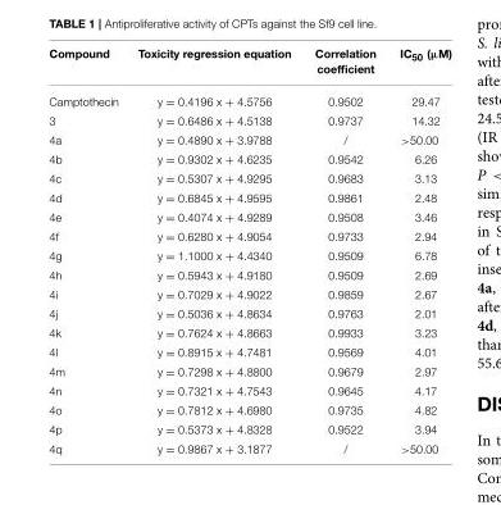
<table><thead><tr><td>Compound</td><td>Toxicity regression equation</td><td>Correlation coefficient</td><td>IC<sub>50</sub> (µM)</td></tr></thead><tbody><tr><td>Camptothecin</td><td>y = 0.4196 x + 4.5756</td><td>0.9502</td><td>29.47</td></tr><tr><td>3</td><td>y = 0.6486 x + 4.5138</td><td>0.9737</td><td>14.32</td></tr><tr><td>4a</td><td>y = 0.4890 x + 3.9788</td><td>/</td><td>&gt;50.00</td></tr><tr><td>4b</td><td>y = 0.9302 x + 4.6235</td><td>0.9542</td><td>6.26</td></tr><tr><td>4c</td><td>y = 0.5307 x + 4.9295</td><td>0.9683</td><td>3.13</td></tr><tr><td>4d</td><td>y = 0.6845 x + 4.9595</td><td>0.9861</td><td>2.48</td></tr><tr><td>4e</td><td>y = 0.4074 x + 4.9289</td><td>0.9508</td><td>3.46</td></tr><tr><td>4f</td><td>y = 0.6280 x + 4.9054</td><td>0.9733</td><td>2.94</td></tr><tr><td>4g</td><td>y = 1.1000 x + 4.4340</td><td>0.9509</td><td>6.78</td></tr><tr><td>4h</td><td>y = 0.5943 x + 4.9180</td><td>0.9509</td><td>2.69</td></tr><tr><td>4i</td><td>y = 0.7029 x + 4.9022</td><td>0.9859</td><td>2.67</td></tr><tr><td>4j</td><td>y = 0.5036 x + 4.8634</td><td>0.9763</td><td>2.01</td></tr><tr><td>4k</td><td>y = 0.7624 x + 4.8663</td><td>0.9933</td><td>3.23</td></tr><tr><td>4l</td><td>y = 0.8915 x + 4.7481</td><td>0.9569</td><td>4.01</td></tr><tr><td>4m</td><td>y = 0.7298 x + 4.8800</td><td>0.9679</td><td>2.97</td></tr><tr><td>4n</td><td>y = 0.7321 x + 4.7543</td><td>0.9645</td><td>4.17</td></tr><tr><td>4o</td><td>y = 0.7812 x + 4.6980</td><td>0.9735</td><td>4.82</td></tr><tr><td>4p</td><td>y = 0.5373 x + 4.8328</td><td>0.9522</td><td>3.94</td></tr><tr><td>4q</td><td>y = 0.9867 x + 3.1877</td><td>/</td><td>&gt;50.00</td></tr></tbody></table>